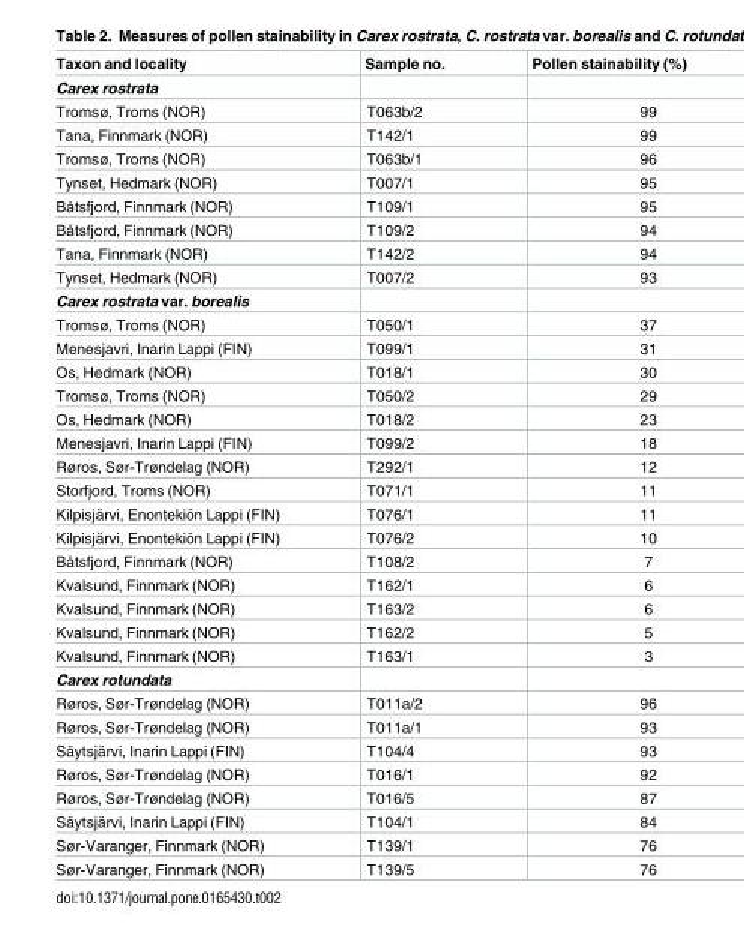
<table><thead><tr><td>Taxon and locality</td><td>Sample no.</td><td>Pollen stainability (%)</td></tr></thead><tbody><tr><td colspan="3">Carex rostrata</td></tr><tr><td>Tromsø, Troms (NOR)</td><td>T063b/2</td><td>99</td></tr><tr><td>Tana, Finnmark (NOR)</td><td>T142/1</td><td>99</td></tr><tr><td>Tromsø, Troms (NOR)</td><td>T063b/1</td><td>96</td></tr><tr><td>Tynset, Hedmark (NOR)</td><td>T007/1</td><td>95</td></tr><tr><td>Båtsfjord, Finnmark (NOR)</td><td>T109/1</td><td>95</td></tr><tr><td>Båtsfjord, Finnmark (NOR)</td><td>T109/2</td><td>94</td></tr><tr><td>Tana, Finnmark (NOR)</td><td>T142/2</td><td>94</td></tr><tr><td>Tynset, Hedmark (NOR)</td><td>T007/2</td><td>93</td></tr><tr><td colspan="3">Carex rostrata var. borealis</td></tr><tr><td>Tromsø, Troms (NOR)</td><td>T050/1</td><td>37</td></tr><tr><td>Menesjavri, Inarin Lappi (FIN)</td><td>T099/1</td><td>31</td></tr><tr><td>Os, Hedmark (NOR)</td><td>T018/1</td><td>30</td></tr><tr><td>Tromsø, Troms (NOR)</td><td>T050/2</td><td>29</td></tr><tr><td>Os, Hedmark (NOR)</td><td>T018/2</td><td>23</td></tr><tr><td>Menesjavri, Inarin Lappi (FIN)</td><td>T099/2</td><td>18</td></tr><tr><td>Røros, Sør-Trøndelag (NOR)</td><td>T292/1</td><td>12</td></tr><tr><td>Storfjord, Troms (NOR)</td><td>T071/1</td><td>11</td></tr><tr><td>Kilpisja¨rvi, Enontekio¨n Lappi (FIN)</td><td>T076/1</td><td>11</td></tr><tr><td>Kilpisja¨rvi, Enontekio¨n Lappi (FIN)</td><td>T076/2</td><td>10</td></tr><tr><td>Båtsfjord, Finnmark (NOR)</td><td>T108/2</td><td>7</td></tr><tr><td>Kvalsund, Finnmark (NOR)</td><td>T162/1</td><td>6</td></tr><tr><td>Kvalsund, Finnmark (NOR)</td><td>T163/2</td><td>6</td></tr><tr><td>Kvalsund, Finnmark (NOR)</td><td>T162/2</td><td>5</td></tr><tr><td>Kvalsund, Finnmark (NOR)</td><td>T163/1</td><td>3</td></tr><tr><td colspan="3">Carex rotundata</td></tr><tr><td>Røros, Sør-Trøndelag (NOR)</td><td>T011a/2</td><td>96</td></tr><tr><td>Røros, Sør-Trøndelag (NOR)</td><td>T011a/1</td><td>93</td></tr><tr><td>Sa¨ytsja¨rvi, Inarin Lappi (FIN)</td><td>T104/4</td><td>93</td></tr><tr><td>Røros, Sør-Trøndelag (NOR)</td><td>T016/1</td><td>92</td></tr><tr><td>Røros, Sør-Trøndelag (NOR)</td><td>T016/5</td><td>87</td></tr><tr><td>Sa¨ytsja¨rvi, Inarin Lappi (FIN)</td><td>T104/1</td><td>84</td></tr><tr><td>Sør-Varanger, Finnmark (NOR)</td><td>T139/1</td><td>76</td></tr><tr><td>Sør-Varanger, Finnmark (NOR)</td><td>T139/5</td><td>76</td></tr></tbody></table>